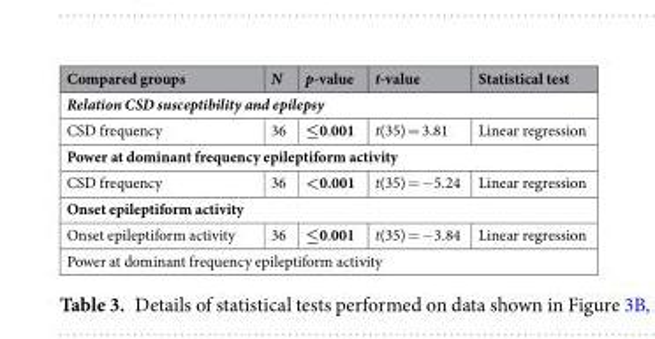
<table><thead><tr><td>Compared groups</td><td>N</td><td>p-value</td><td>t-value</td><td>Statistical test</td></tr></thead><tbody><tr><td colspan="5">Relation CSD susceptibility and epilepsy</td></tr><tr><td>CSD frequency</td><td>36</td><td>≤0.001</td><td>t(35) = 3.81</td><td>Linear regression</td></tr><tr><td colspan="5">Power at dominant frequency epileptiform activity</td></tr><tr><td>CSD frequency</td><td>36</td><td>&lt;0.001</td><td>t(35) = −5.24</td><td>Linear regression</td></tr><tr><td colspan="5">Onset epileptiform activity</td></tr><tr><td>Onset epileptiform activity</td><td>36</td><td>≤0.001</td><td>t(35) = −3.84</td><td>Linear regression</td></tr><tr><td colspan="5">Power at dominant frequency epileptiform activity</td></tr></tbody></table>